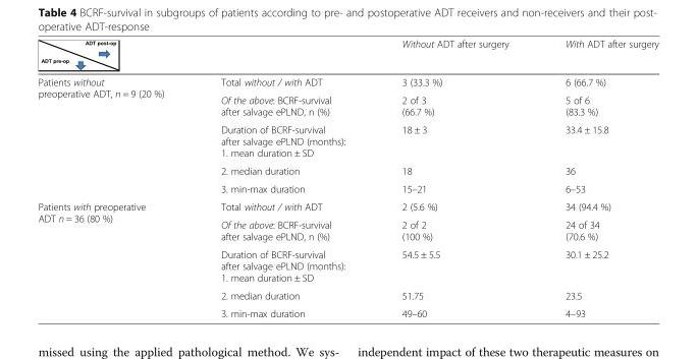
<table><thead><tr><td></td><td></td><td>Without ADT after surgery</td><td>With ADT after surgery</td></tr></thead><tbody><tr><td rowspan="5">Patients without preoperative ADT, n = 9 (20 %)</td><td>Total without / with ADT</td><td>3 (33.3 %)</td><td>6 (66.7 %)</td></tr><tr><td>Of the above: BCRF-survival after salvage ePLND, n (%)</td><td>2 of 3 (66.7 %)</td><td>5 of 6 (83.3 %)</td></tr><tr><td>Duration of BCRF-survival after salvage ePLND (months): 1. mean duration ± SD</td><td>18 ± 3</td><td>33.4 ± 15.8</td></tr><tr><td>2. median duration</td><td>18</td><td>36</td></tr><tr><td>3. min-max duration</td><td>15–21</td><td>6–53</td></tr><tr><td rowspan="5">Patients with preoperative ADT n = 36 (80 %)</td><td>Total without / with ADT</td><td>2 (5.6 %)</td><td>34 (94.4 %)</td></tr><tr><td>Of the above: BCRF-survival after salvage ePLND, n (%)</td><td>2 of 2 (100 %)</td><td>24 of 34 (70.6 %)</td></tr><tr><td>Duration of BCRF-survival after salvage ePLND (months): 1. mean duration ± SD</td><td>54.5 ± 5.5</td><td>30.1 ± 25.2</td></tr><tr><td>2. median duration</td><td>51.75</td><td>23.5</td></tr><tr><td>3. min-max duration</td><td>49–60</td><td>4–93</td></tr></tbody></table>